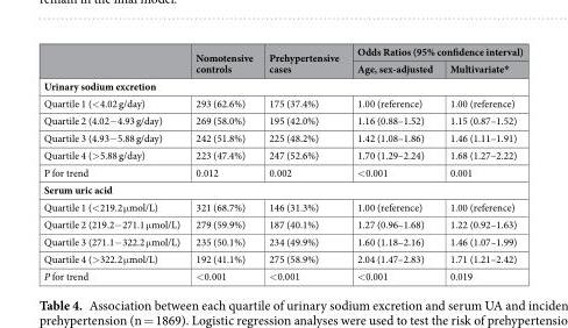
<table><thead><tr><td rowspan="2"></td><td rowspan="2">Nomotensive controls</td><td rowspan="2">Prehypertensive cases</td><td colspan="2">Odds Ratios (95% confidence interval)</td></tr><tr><td>Age, sex-adjusted</td><td>Multivariate*</td></tr></thead><tbody><tr><td colspan="5">Urinary sodium excretion</td></tr><tr><td>Quartile 1 (&lt;4.02 g/day)</td><td>293 (62.6%)</td><td>175 (37.4%)</td><td>1.00 (reference)</td><td>1.00 (reference)</td></tr><tr><td>Quartile 2 (4.02−4.93 g/day)</td><td>269 (58.0%)</td><td>195 (42.0%)</td><td>1.16 (0.88–1.52)</td><td>1.15 (0.87–1.52)</td></tr><tr><td>Quartile 3 (4.93−5.88 g/day)</td><td>242 (51.8%)</td><td>225 (48.2%)</td><td>1.42 (1.08–1.86)</td><td>1.46 (1.11–1.91)</td></tr><tr><td>Quartile 4 (&gt;5.88 g/day)</td><td>223 (47.4%)</td><td>247 (52.6%)</td><td>1.70 (1.29–2.24)</td><td>1.68 (1.27–2.22)</td></tr><tr><td>P for trend</td><td>0.012</td><td>0.002</td><td>&lt;0.001</td><td>0.001</td></tr><tr><td colspan="5">Serum uric acid</td></tr><tr><td>Quartile 1 (&lt;219.2 μmol/L)</td><td>321 (68.7%)</td><td>146 (31.3%)</td><td>1.00 (reference)</td><td>1.00 (reference)</td></tr><tr><td>Quartile 2 (219.2−271.1 μmol/L)</td><td>279 (59.9%)</td><td>187 (40.1%)</td><td>1.27 (0.96–1.68)</td><td>1.22 (0.92–1.63)</td></tr><tr><td>Quartile 3 (271.1−322.2 μmol/L)</td><td>235 (50.1%)</td><td>234 (49.9%)</td><td>1.60 (1.18–2.16)</td><td>1.46 (1.07–1.99)</td></tr><tr><td>Quartile 4 (&gt;322.2 μmol/L)</td><td>192 (41.1%)</td><td>275 (58.9%)</td><td>2.04 (1.47–2.83)</td><td>1.71 (1.21–2.42)</td></tr><tr><td>P for trend</td><td>&lt;0.001</td><td>&lt;0.001</td><td>&lt;0.001</td><td>0.019</td></tr></tbody></table>